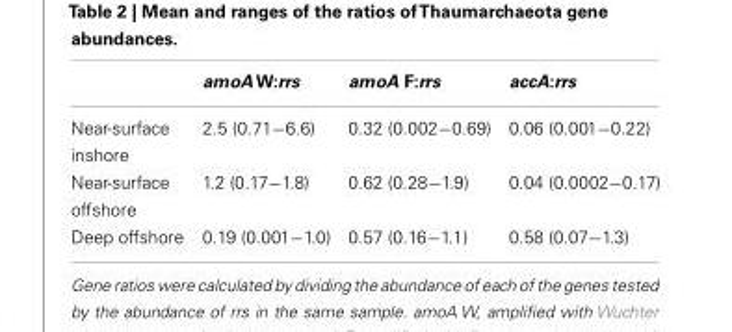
<table><thead><tr><td></td><td>amoA W:rrs</td><td>amoA F:rrs</td><td>accA:rrs</td></tr></thead><tbody><tr><td>Near-surface inshore</td><td>2.5 (0.71−6.6)</td><td>0.32 (0.002−0.69)</td><td>0.06 (0.001−0.22)</td></tr><tr><td>Near-surface offshore</td><td>1.2 (0.17−1.8)</td><td>0.62 (0.28−1.9)</td><td>0.04 (0.0002−0.17)</td></tr><tr><td>Deep offshore</td><td>0.19 (0.001−1.0)</td><td>0.57 (0.16−1.1)</td><td>0.58 (0.07−1.3)</td></tr></tbody></table>